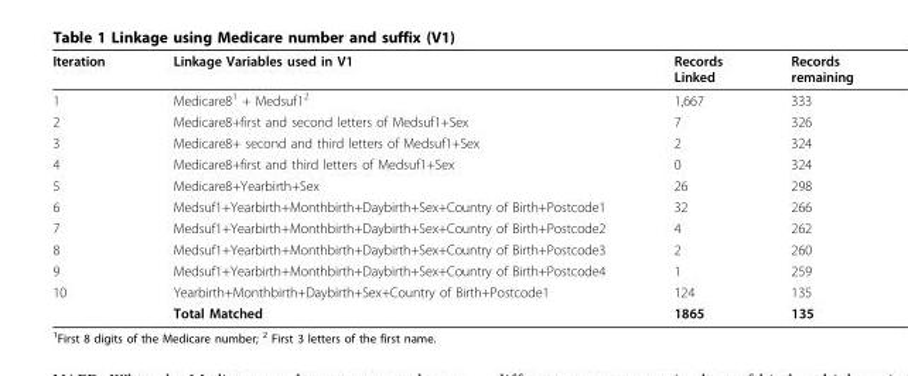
<table><thead><tr><td>Iteration</td><td>Linkage Variables used in V1</td><td>Records Linked</td><td>Records remaining</td></tr></thead><tbody><tr><td>1</td><td>Medicare8<sup>1</sup> + Medsuf1<sup>2</sup></td><td>1,667</td><td>333</td></tr><tr><td>2</td><td>Medicare8+first and second letters of Medsuf1+Sex</td><td>7</td><td>326</td></tr><tr><td>3</td><td>Medicare8+ second and third letters of Medsuf1+Sex</td><td>2</td><td>324</td></tr><tr><td>4</td><td>Medicare8+first and third letters of Medsuf1+Sex</td><td>0</td><td>324</td></tr><tr><td>5</td><td>Medicare8+Yearbirth+Sex</td><td>26</td><td>298</td></tr><tr><td>6</td><td>Medsuf1+Yearbirth+Monthbirth+Daybirth+Sex+Country of Birth+Postcode1</td><td>32</td><td>266</td></tr><tr><td>7</td><td>Medsuf1+Yearbirth+Monthbirth+Daybirth+Sex+Country of Birth+Postcode2</td><td>4</td><td>262</td></tr><tr><td>8</td><td>Medsuf1+Yearbirth+Monthbirth+Daybirth+Sex+Country of Birth+Postcode3</td><td>2</td><td>260</td></tr><tr><td>9</td><td>Medsuf1+Yearbirth+Monthbirth+Daybirth+Sex+Country of Birth+Postcode4</td><td>1</td><td>259</td></tr><tr><td rowspan="2">10</td><td>Yearbirth+Monthbirth+Daybirth+Sex+Country of Birth+Postcode1</td><td>124</td><td>135</td></tr><tr><td>Total Matched</td><td>1865</td><td>135</td></tr></tbody></table>